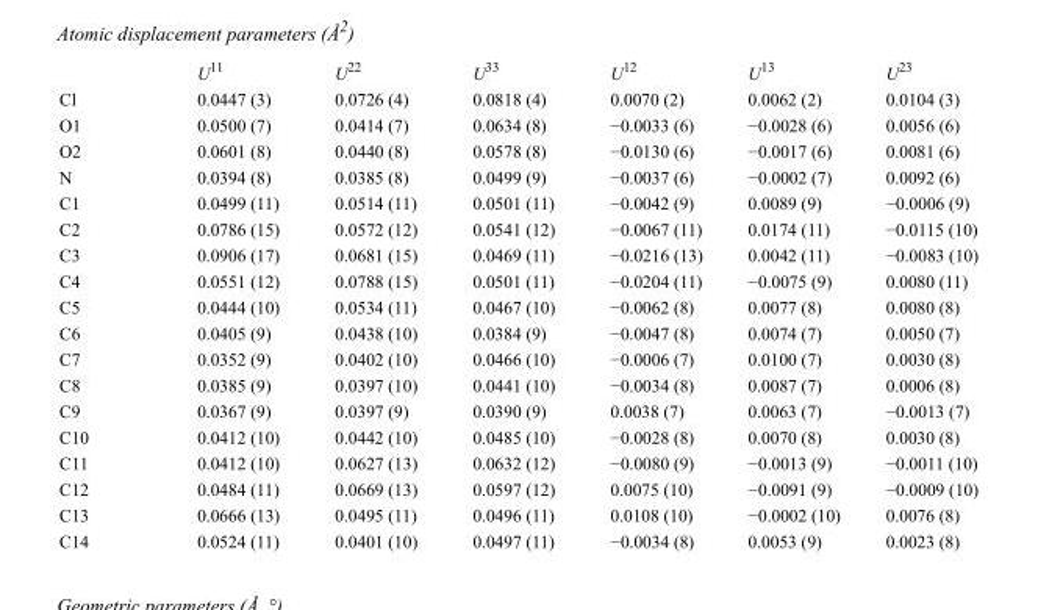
<table><thead><tr><td></td><td>U<sup>11</sup></td><td>U<sup>22</sup></td><td>U<sup>33</sup></td><td>U<sup>12</sup></td><td>U<sup>13</sup></td><td>U<sup>23</sup></td></tr></thead><tbody><tr><td>Cl</td><td>0.0447 (3)</td><td>0.0726 (4)</td><td>0.0818 (4)</td><td>0.0070 (2)</td><td>0.0062 (2)</td><td>0.0104 (3)</td></tr><tr><td>O1</td><td>0.0500 (7)</td><td>0.0414 (7)</td><td>0.0634 (8)</td><td>−0.0033 (6)</td><td>−0.0028 (6)</td><td>0.0056 (6)</td></tr><tr><td>O2</td><td>0.0601 (8)</td><td>0.0440 (8)</td><td>0.0578 (8)</td><td>−0.0130 (6)</td><td>−0.0017 (6)</td><td>0.0081 (6)</td></tr><tr><td>N</td><td>0.0394 (8)</td><td>0.0385 (8)</td><td>0.0499 (9)</td><td>−0.0037 (6)</td><td>−0.0002 (7)</td><td>0.0092 (6)</td></tr><tr><td>C1</td><td>0.0499 (11)</td><td>0.0514 (11)</td><td>0.0501 (11)</td><td>−0.0042 (9)</td><td>0.0089 (9)</td><td>−0.0006 (9)</td></tr><tr><td>C2</td><td>0.0786 (15)</td><td>0.0572 (12)</td><td>0.0541 (12)</td><td>−0.0067 (11)</td><td>0.0174 (11)</td><td>−0.0115 (10)</td></tr><tr><td>C3</td><td>0.0906 (17)</td><td>0.0681 (15)</td><td>0.0469 (11)</td><td>−0.0216 (13)</td><td>0.0042 (11)</td><td>−0.0083 (10)</td></tr><tr><td>C4</td><td>0.0551 (12)</td><td>0.0788 (15)</td><td>0.0501 (11)</td><td>−0.0204 (11)</td><td>−0.0075 (9)</td><td>0.0080 (11)</td></tr><tr><td>C5</td><td>0.0444 (10)</td><td>0.0534 (11)</td><td>0.0467 (10)</td><td>−0.0062 (8)</td><td>0.0077 (8)</td><td>0.0080 (8)</td></tr><tr><td>C6</td><td>0.0405 (9)</td><td>0.0438 (10)</td><td>0.0384 (9)</td><td>−0.0047 (8)</td><td>0.0074 (7)</td><td>0.0050 (7)</td></tr><tr><td>C7</td><td>0.0352 (9)</td><td>0.0402 (10)</td><td>0.0466 (10)</td><td>−0.0006 (7)</td><td>0.0100 (7)</td><td>0.0030 (8)</td></tr><tr><td>C8</td><td>0.0385 (9)</td><td>0.0397 (10)</td><td>0.0441 (10)</td><td>−0.0034 (8)</td><td>0.0087 (7)</td><td>0.0006 (8)</td></tr><tr><td>C9</td><td>0.0367 (9)</td><td>0.0397 (9)</td><td>0.0390 (9)</td><td>0.0038 (7)</td><td>0.0063 (7)</td><td>−0.0013 (7)</td></tr><tr><td>C10</td><td>0.0412 (10)</td><td>0.0442 (10)</td><td>0.0485 (10)</td><td>−0.0028 (8)</td><td>0.0070 (8)</td><td>0.0030 (8)</td></tr><tr><td>C11</td><td>0.0412 (10)</td><td>0.0627 (13)</td><td>0.0632 (12)</td><td>−0.0080 (9)</td><td>−0.0013 (9)</td><td>−0.0011 (10)</td></tr><tr><td>C12</td><td>0.0484 (11)</td><td>0.0669 (13)</td><td>0.0597 (12)</td><td>0.0075 (10)</td><td>−0.0091 (9)</td><td>−0.0009 (10)</td></tr><tr><td>C13</td><td>0.0666 (13)</td><td>0.0495 (11)</td><td>0.0496 (11)</td><td>0.0108 (10)</td><td>−0.0002 (10)</td><td>0.0076 (8)</td></tr><tr><td>C14</td><td>0.0524 (11)</td><td>0.0401 (10)</td><td>0.0497 (11)</td><td>−0.0034 (8)</td><td>0.0053 (9)</td><td>0.0023 (8)</td></tr></tbody></table>